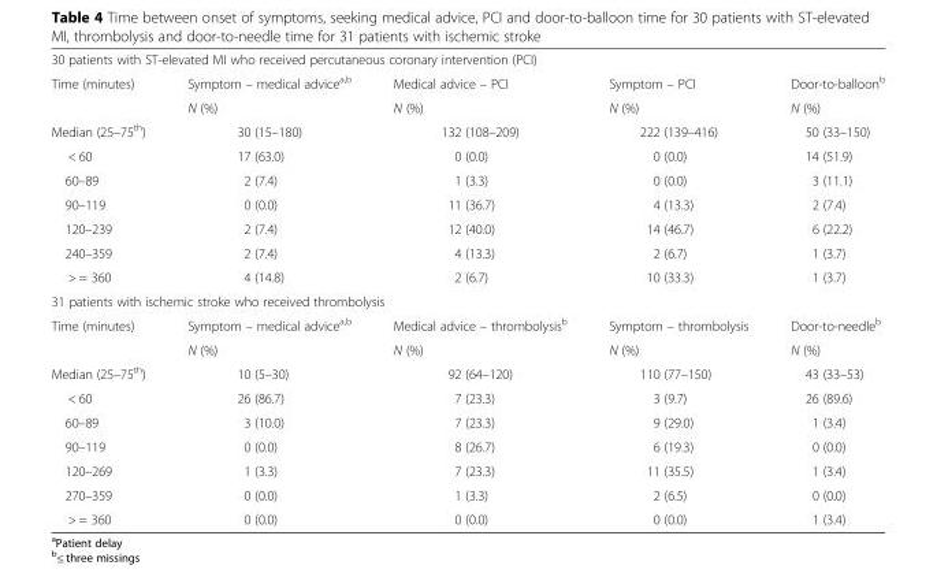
<table><tbody><tr><td colspan="5">30 patients with ST-elevated MI who received percutaneous coronary intervention (PCI)</td></tr><tr><td rowspan="2">Time (minutes)</td><td>Symptom – medical advice<sup>a,b</sup></td><td>Medical advice – PCI</td><td>Symptom – PCI</td><td>Door-to-balloon<sup>b</sup></td></tr><tr><td>N (%)</td><td>N (%)</td><td>N (%)</td><td>N (%)</td></tr><tr><td>Median (25–75<sup>th</sup>)</td><td>30 (15–180)</td><td>132 (108–209)</td><td>222 (139–416)</td><td>50 (33–150)</td></tr><tr><td>&lt; 60</td><td>17 (63.0)</td><td>0 (0.0)</td><td>0 (0.0)</td><td>14 (51.9)</td></tr><tr><td>60–89</td><td>2 (7.4)</td><td>1 (3.3)</td><td>0 (0.0)</td><td>3 (11.1)</td></tr><tr><td>90–119</td><td>0 (0.0)</td><td>11 (36.7)</td><td>4 (13.3)</td><td>2 (7.4)</td></tr><tr><td>120–239</td><td>2 (7.4)</td><td>12 (40.0)</td><td>14 (46.7)</td><td>6 (22.2)</td></tr><tr><td>240–359</td><td>2 (7.4)</td><td>4 (13.3)</td><td>2 (6.7)</td><td>1 (3.7)</td></tr><tr><td>&gt; = 360</td><td>4 (14.8)</td><td>2 (6.7)</td><td>10 (33.3)</td><td>1 (3.7)</td></tr><tr><td colspan="5">31 patients with ischemic stroke who received thrombolysis</td></tr><tr><td rowspan="2">Time (minutes)</td><td>Symptom – medical advice<sup>a,b</sup></td><td>Medical advice – thrombolysis<sup>b</sup></td><td>Symptom – thrombolysis</td><td>Door-to-needle<sup>b</sup></td></tr><tr><td>N (%)</td><td>N (%)</td><td>N (%)</td><td>N (%)</td></tr><tr><td>Median (25–75<sup>th</sup>)</td><td>10 (5–30)</td><td>92 (64–120)</td><td>110 (77–150)</td><td>43 (33–53)</td></tr><tr><td>&lt; 60</td><td>26 (86.7)</td><td>7 (23.3)</td><td>3 (9.7)</td><td>26 (89.6)</td></tr><tr><td>60–89</td><td>3 (10.0)</td><td>7 (23.3)</td><td>9 (29.0)</td><td>1 (3.4)</td></tr><tr><td>90–119</td><td>0 (0.0)</td><td>8 (26.7)</td><td>6 (19.3)</td><td>0 (0.0)</td></tr><tr><td>120–269</td><td>1 (3.3)</td><td>7 (23.3)</td><td>11 (35.5)</td><td>1 (3.4)</td></tr><tr><td>270–359</td><td>0 (0.0)</td><td>1 (3.3)</td><td>2 (6.5)</td><td>0 (0.0)</td></tr><tr><td>&gt; = 360</td><td>0 (0.0)</td><td>0 (0.0)</td><td>0 (0.0)</td><td>1 (3.4)</td></tr></tbody></table>